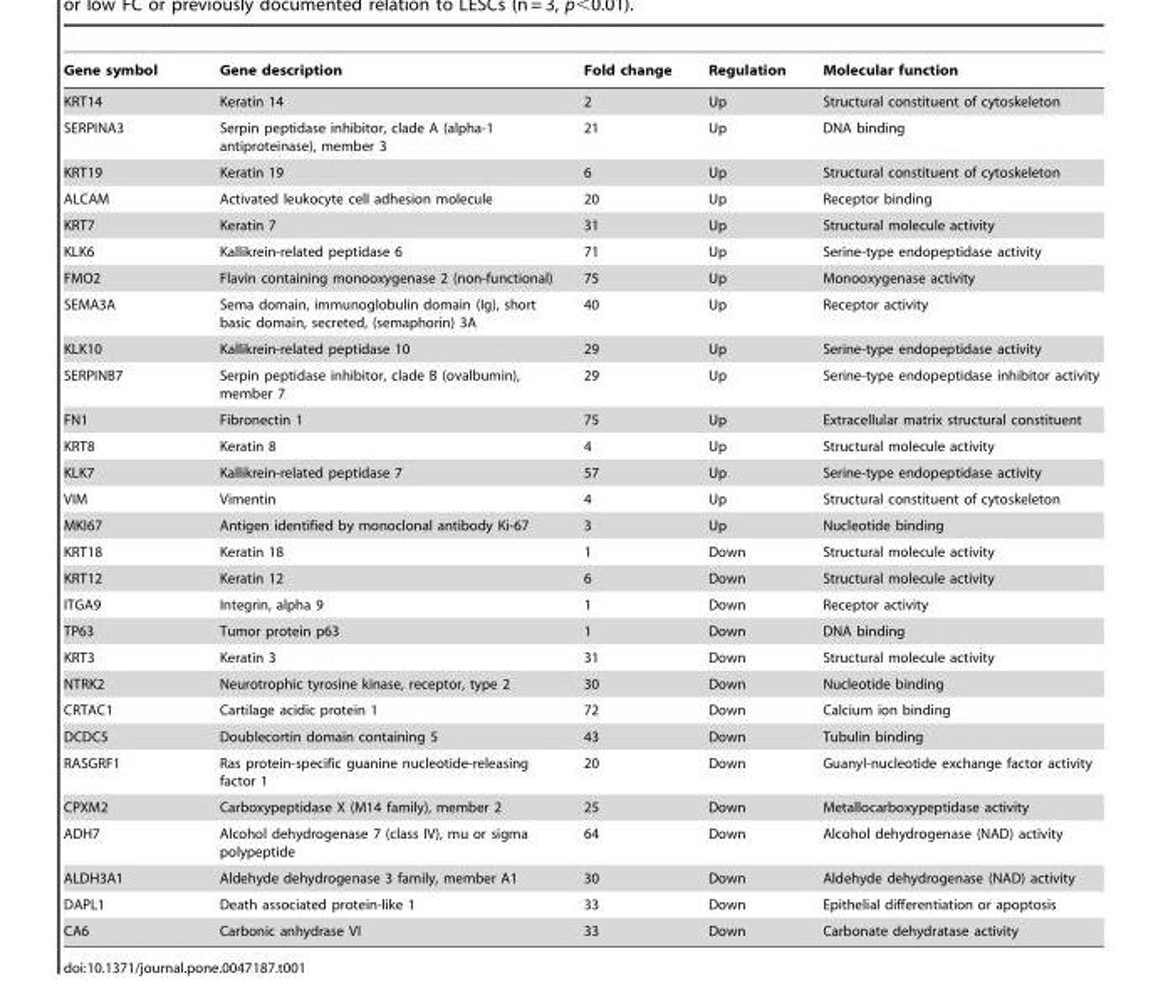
<table><thead><tr><td>Gene symbol</td><td>Gene description</td><td>Fold change</td><td>Regulation</td><td>Molecular function</td></tr></thead><tbody><tr><td>KRT14</td><td>Keratin 14</td><td>2</td><td>Up</td><td>Structural constituent of cytoskeleton</td></tr><tr><td>SERPINA3</td><td>Serpin peptidase inhibitor, clade A (alpha-1 antiproteinase), member 3</td><td>21</td><td>Up</td><td>DNA binding</td></tr><tr><td>KRT19</td><td>Keratin 19</td><td>6</td><td>Up</td><td>Structural constituent of cytoskeleton</td></tr><tr><td>ALCAM</td><td>Activated leukocyte cell adhesion molecule</td><td>20</td><td>Up</td><td>Receptor binding</td></tr><tr><td>KRT7</td><td>Keratin 7</td><td>31</td><td>Up</td><td>Structural molecule activity</td></tr><tr><td>KLK6</td><td>Kallikrein-related peptidase 6</td><td>71</td><td>Up</td><td>Serine-type endopeptidase activity</td></tr><tr><td>FMO2</td><td>Flavin containing monooxygenase 2 (non-functional)</td><td>75</td><td>Up</td><td>Monooxygenase activity</td></tr><tr><td>SEMA3A</td><td>Sema domain, immunoglobulin domain (Ig), short basic domain, secreted, (semaphorin) 3A</td><td>40</td><td>Up</td><td>Receptor activity</td></tr><tr><td>KLK10</td><td>Kallikrein-related peptidase 10</td><td>29</td><td>Up</td><td>Serine-type endopeptidase activity</td></tr><tr><td>SERPINB7</td><td>Serpin peptidase inhibitor, clade B (ovalbumin), member 7</td><td>29</td><td>Up</td><td>Serine-type endopeptidase inhibitor activity</td></tr><tr><td>FN1</td><td>Fibronectin 1</td><td>75</td><td>Up</td><td>Extracellular matrix structural constituent</td></tr><tr><td>KRT8</td><td>Keratin 8</td><td>4</td><td>Up</td><td>Structural molecule activity</td></tr><tr><td>KLK7</td><td>Kallikrein-related peptidase 7</td><td>57</td><td>Up</td><td>Serine-type endopeptidase activity</td></tr><tr><td>VIM</td><td>Vimentin</td><td>4</td><td>Up</td><td>Structural constituent of cytoskeleton</td></tr><tr><td>MKI67</td><td>Antigen identified by monoclonal antibody Ki-67</td><td>3</td><td>Up</td><td>Nucleotide binding</td></tr><tr><td>KRT18</td><td>Keratin 18</td><td>1</td><td>Down</td><td>Structural molecule activity</td></tr><tr><td>KRT12</td><td>Keratin 12</td><td>6</td><td>Down</td><td>Structural molecule activity</td></tr><tr><td>ITGA9</td><td>Integrin, alpha 9</td><td>1</td><td>Down</td><td>Receptor activity</td></tr><tr><td>TP63</td><td>Tumor protein p63</td><td>1</td><td>Down</td><td>DNA binding</td></tr><tr><td>KRT3</td><td>Keratin 3</td><td>31</td><td>Down</td><td>Structural molecule activity</td></tr><tr><td>NTRK2</td><td>Neurotrophic tyrosine kinase, receptor, type 2</td><td>30</td><td>Down</td><td>Nucleotide binding</td></tr><tr><td>CRTAC1</td><td>Cartilage acidic protein 1</td><td>72</td><td>Down</td><td>Calcium ion binding</td></tr><tr><td>DCDC5</td><td>Doublecortin domain containing 5</td><td>43</td><td>Down</td><td>Tubulin binding</td></tr><tr><td>RASGRF1</td><td>Ras protein-specific guanine nucleotide-releasing factor 1</td><td>20</td><td>Down</td><td>Guanyl-nucleotide exchange factor activity</td></tr><tr><td>CPXM2</td><td>Carboxypeptidase X (M14 family), member 2</td><td>25</td><td>Down</td><td>Metallocarboxypeptidase activity</td></tr><tr><td>ADH7</td><td>Alcohol dehydrogenase 7 (class IV), mu or sigma polypeptide</td><td>64</td><td>Down</td><td>Alcohol dehydrogenase (NAD) activity</td></tr><tr><td>ALDH3A1</td><td>Aldehyde dehydrogenase 3 family, member A1</td><td>30</td><td>Down</td><td>Aldehyde dehydrogenase (NAD) activity</td></tr><tr><td>DAPL1</td><td>Death associated protein-like 1</td><td>33</td><td>Down</td><td>Epithelial differentiation or apoptosis</td></tr><tr><td>CA6</td><td>Carbonic anhydrase VI</td><td>33</td><td>Down</td><td>Carbonate dehydratase activity</td></tr></tbody></table>